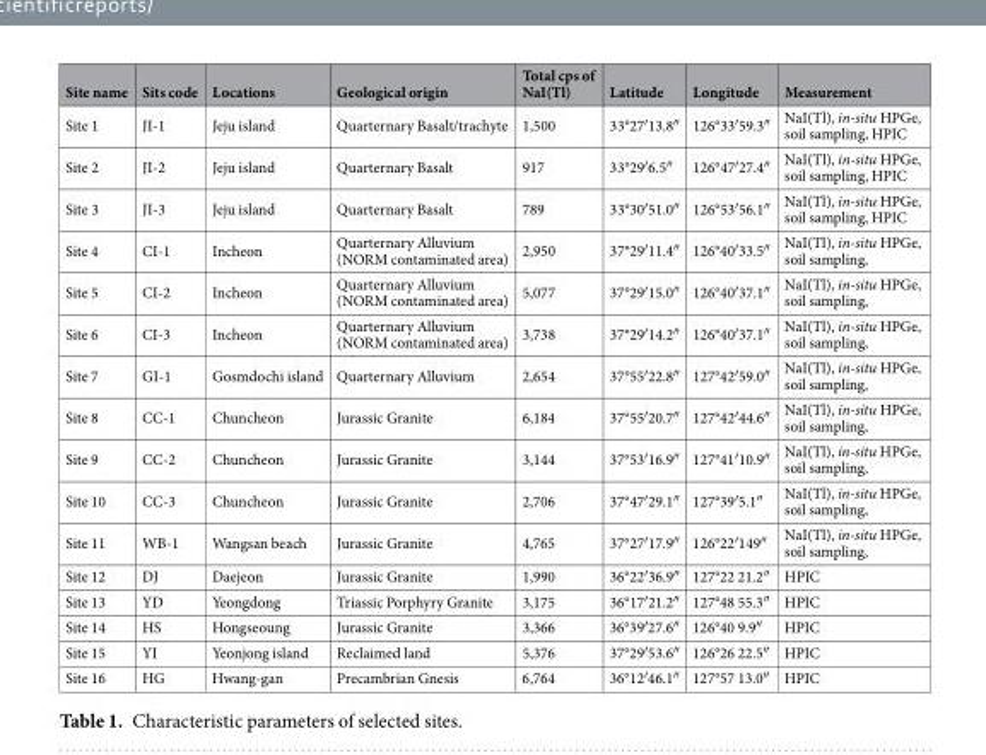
<table><thead><tr><td>Site name</td><td>Sits code</td><td>Locations</td><td>Geological origin</td><td>Total cps of NaI(Tl)</td><td>Latitude</td><td>Longitude</td><td>Measurement</td></tr></thead><tbody><tr><td>Site 1</td><td>JI-1</td><td>Jeju island</td><td>Quarternary Basalt/trachyte</td><td>1,500</td><td>33°27′13.8″</td><td>126°33′59.3″</td><td>NaI(Tl), in-situ HPGe, soil sampling, HPIC</td></tr><tr><td>Site 2</td><td>JI-2</td><td>Jeju island</td><td>Quarternary Basalt</td><td>917</td><td>33°29′6.5″</td><td>126°47′27.4″</td><td>NaI(Tl), in-situ HPGe, soil sampling, HPIC</td></tr><tr><td>Site 3</td><td>JI-3</td><td>Jeju island</td><td>Quarternary Basalt</td><td>789</td><td>33°30′51.0″</td><td>126°53′56.1″</td><td>NaI(Tl), in-situ HPGe, soil sampling, HPIC</td></tr><tr><td>Site 4</td><td>CI-1</td><td>Incheon</td><td>Quarternary Alluvium (NORM contaminated area)</td><td>2,950</td><td>37°29′11.4″</td><td>126°40′33.5″</td><td>NaI(Tl), in-situ HPGe, soil sampling,</td></tr><tr><td>Site 5</td><td>CI-2</td><td>Incheon</td><td>Quarternary Alluvium (NORM contaminated area)</td><td>5,077</td><td>37°29′15.0″</td><td>126°40′37.1″</td><td>NaI(Tl), in-situ HPGe, soil sampling,</td></tr><tr><td>Site 6</td><td>CI-3</td><td>Incheon</td><td>Quarternary Alluvium (NORM contaminated area)</td><td>3,738</td><td>37°29′14.2″</td><td>126°40′37.1″</td><td>NaI(Tl), in-situ HPGe, soil sampling,</td></tr><tr><td>Site 7</td><td>GI-1</td><td>Gosmdochi island</td><td>Quarternary Alluvium</td><td>2,654</td><td>37°55′22.8″</td><td>127°42′59.0″</td><td>NaI(Tl), in-situ HPGe, soil sampling,</td></tr><tr><td>Site 8</td><td>CC-1</td><td>Chuncheon</td><td>Jurassic Granite</td><td>6,184</td><td>37°55′20.7″</td><td>127°42′44.6″</td><td>NaI(Tl), in-situ HPGe, soil sampling,</td></tr><tr><td>Site 9</td><td>CC-2</td><td>Chuncheon</td><td>Jurassic Granite</td><td>3,144</td><td>37°53′16.9″</td><td>127°41′10.9″</td><td>NaI(Tl), in-situ HPGe, soil sampling,</td></tr><tr><td>Site 10</td><td>CC-3</td><td>Chuncheon</td><td>Jurassic Granite</td><td>2,706</td><td>37°47′29.1″</td><td>127°39′5.1″</td><td>NaI(Tl), in-situ HPGe, soil sampling,</td></tr><tr><td>Site 11</td><td>WB-1</td><td>Wangsan beach</td><td>Jurassic Granite</td><td>4,765</td><td>37°27′17.9″</td><td>126°22′149″</td><td>NaI(Tl), in-situ HPGe, soil sampling,</td></tr><tr><td>Site 12</td><td>DJ</td><td>Daejeon</td><td>Jurassic Granite</td><td>1,990</td><td>36°22′36.9″</td><td>127°22 21.2″</td><td>HPIC</td></tr><tr><td>Site 13</td><td>YD</td><td>Yeongdong</td><td>Triassic Porphyry Granite</td><td>3,175</td><td>36°17′21.2″</td><td>127°48 55.3″</td><td>HPIC</td></tr><tr><td>Site 14</td><td>HS</td><td>Hongseoung</td><td>Jurassic Granite</td><td>3,366</td><td>36°39′27.6″</td><td>126°40 9.9″</td><td>HPIC</td></tr><tr><td>Site 15</td><td>YI</td><td>Yeonjong island</td><td>Reclaimed land</td><td>5,376</td><td>37°29′53.6″</td><td>126°26 22.5″</td><td>HPIC</td></tr><tr><td>Site 16</td><td>HG</td><td>Hwang-gan</td><td>Precambrian Gnesis</td><td>6,764</td><td>36°12′46.1″</td><td>127°57 13.0″</td><td>HPIC</td></tr></tbody></table>